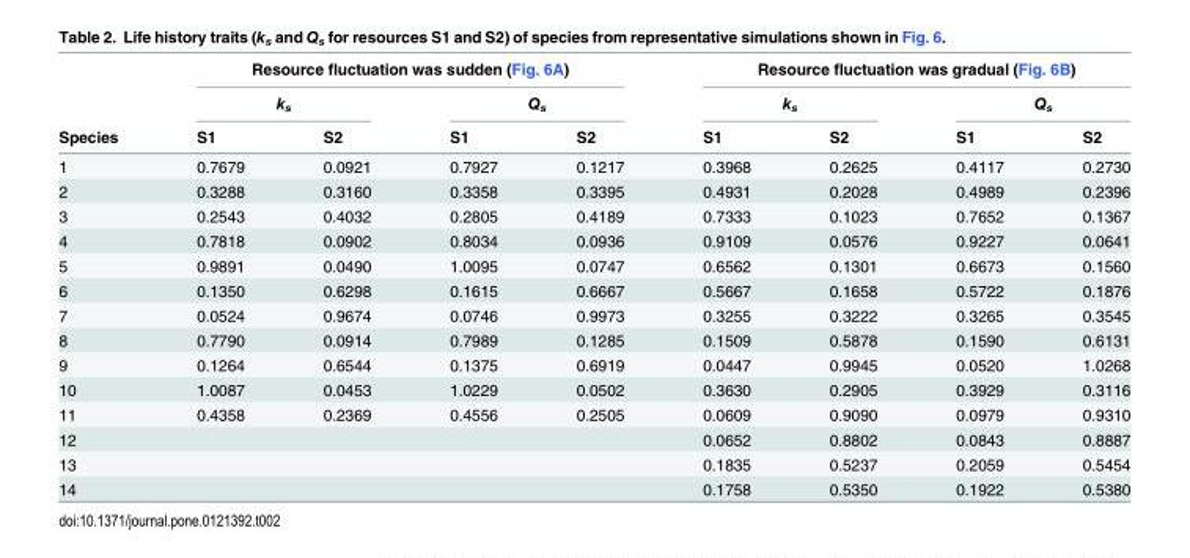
<table><thead><tr><td rowspan="3">Species</td><td colspan="4">Resource fluctuation was sudden (Fig. 6A)</td><td colspan="4">Resource fluctuation was gradual (Fig. 6B)</td></tr><tr><td colspan="2">k<sub>s</sub></td><td colspan="2">Q<sub>s</sub></td><td colspan="2">k<sub>s</sub></td><td colspan="2">Q<sub>s</sub></td></tr><tr><td>S1</td><td>S2</td><td>S1</td><td>S2</td><td>S1</td><td>S2</td><td>S1</td><td>S2</td></tr></thead><tbody><tr><td>1</td><td>0.7679</td><td>0.0921</td><td>0.7927</td><td>0.1217</td><td>0.3968</td><td>0.2625</td><td>0.4117</td><td>0.2730</td></tr><tr><td>2</td><td>0.3288</td><td>0.3160</td><td>0.3358</td><td>0.3395</td><td>0.4931</td><td>0.2028</td><td>0.4989</td><td>0.2396</td></tr><tr><td>3</td><td>0.2543</td><td>0.4032</td><td>0.2805</td><td>0.4189</td><td>0.7333</td><td>0.1023</td><td>0.7652</td><td>0.1367</td></tr><tr><td>4</td><td>0.7818</td><td>0.0902</td><td>0.8034</td><td>0.0936</td><td>0.9109</td><td>0.0576</td><td>0.9227</td><td>0.0641</td></tr><tr><td>5</td><td>0.9891</td><td>0.0490</td><td>1.0095</td><td>0.0747</td><td>0.6562</td><td>0.1301</td><td>0.6673</td><td>0.1560</td></tr><tr><td>6</td><td>0.1350</td><td>0.6298</td><td>0.1615</td><td>0.6667</td><td>0.5667</td><td>0.1658</td><td>0.5722</td><td>0.1876</td></tr><tr><td>7</td><td>0.0524</td><td>0.9674</td><td>0.0746</td><td>0.9973</td><td>0.3255</td><td>0.3222</td><td>0.3265</td><td>0.3545</td></tr><tr><td>8</td><td>0.7790</td><td>0.0914</td><td>0.7989</td><td>0.1285</td><td>0.1509</td><td>0.5878</td><td>0.1590</td><td>0.6131</td></tr><tr><td>9</td><td>0.1264</td><td>0.6544</td><td>0.1375</td><td>0.6919</td><td>0.0447</td><td>0.9945</td><td>0.0520</td><td>1.0268</td></tr><tr><td>10</td><td>1.0087</td><td>0.0453</td><td>1.0229</td><td>0.0502</td><td>0.3630</td><td>0.2905</td><td>0.3929</td><td>0.3116</td></tr><tr><td>11</td><td>0.4358</td><td>0.2369</td><td>0.4556</td><td>0.2505</td><td>0.0609</td><td>0.9090</td><td>0.0979</td><td>0.9310</td></tr><tr><td>12</td><td></td><td></td><td></td><td></td><td>0.0652</td><td>0.8802</td><td>0.0843</td><td>0.8887</td></tr><tr><td>13</td><td></td><td></td><td></td><td></td><td>0.1835</td><td>0.5237</td><td>0.2059</td><td>0.5454</td></tr><tr><td>14</td><td></td><td></td><td></td><td></td><td>0.1758</td><td>0.5350</td><td>0.1922</td><td>0.5380</td></tr></tbody></table>